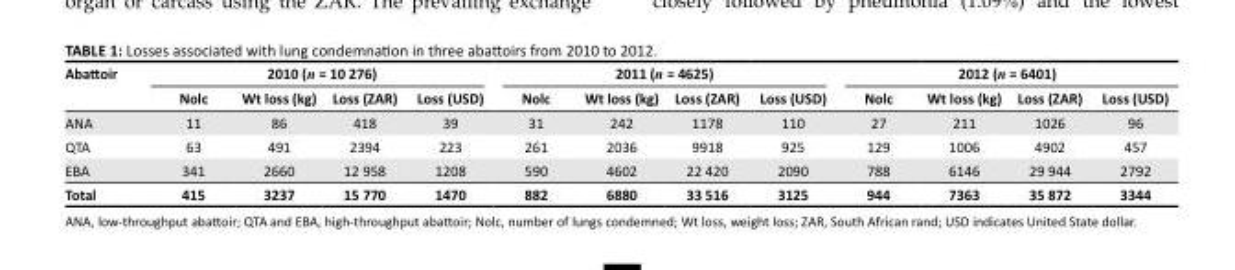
<table><thead><tr><td rowspan="2">Abattoir</td><td colspan="4">2010 (n = 10 276)</td><td colspan="4">2011 (n = 4625)</td><td colspan="4">2012 (n = 6401)</td></tr><tr><td>Nolc</td><td>Wt loss (kg)</td><td>Loss (ZAR)</td><td>Loss (USD)</td><td>Nolc</td><td>Wt loss (kg)</td><td>Loss (ZAR)</td><td>Loss (USD)</td><td>Nolc</td><td>Wt loss (kg)</td><td>Loss (ZAR)</td><td>Loss (USD)</td></tr></thead><tbody><tr><td>ANA</td><td>11</td><td>86</td><td>418</td><td>39</td><td>31</td><td>242</td><td>1178</td><td>110</td><td>27</td><td>211</td><td>1026</td><td>96</td></tr><tr><td>QTA</td><td>63</td><td>491</td><td>2394</td><td>223</td><td>261</td><td>2036</td><td>9918</td><td>925</td><td>129</td><td>1006</td><td>4902</td><td>457</td></tr><tr><td>EBA</td><td>341</td><td>2660</td><td>12 958</td><td>1208</td><td>590</td><td>4602</td><td>22 420</td><td>2090</td><td>788</td><td>6146</td><td>29 944</td><td>2792</td></tr><tr><td>Total</td><td>415</td><td>3237</td><td>15 770</td><td>1470</td><td>882</td><td>6880</td><td>33 516</td><td>3125</td><td>944</td><td>7363</td><td>35 872</td><td>3344</td></tr></tbody></table>